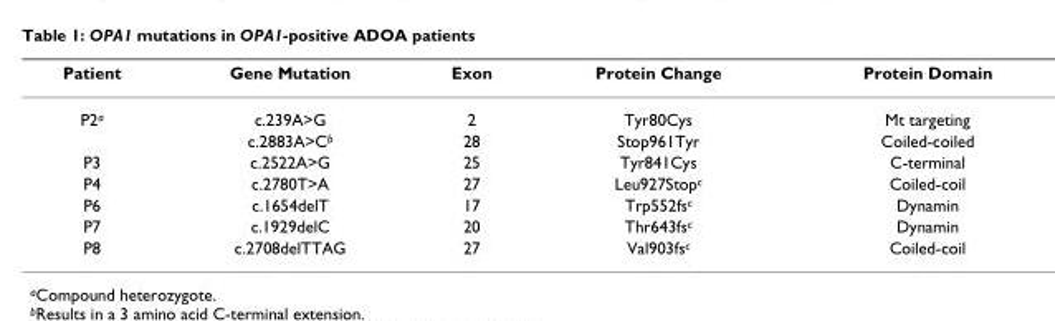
<table><thead><tr><td>Patient</td><td>Gene Mutation</td><td>Exon</td><td>Protein Change</td><td>Protein Domain</td></tr></thead><tbody><tr><td rowspan="2">P2<sup>a</sup></td><td>c.239A&gt;G</td><td>2</td><td>Tyr80Cys</td><td>Mt targeting</td></tr><tr><td>c.2883A&gt;C<sup>b</sup></td><td>28</td><td>Stop961Tyr</td><td>Coiled-coiled</td></tr><tr><td>P3</td><td>c.2522A&gt;G</td><td>25</td><td>Tyr841Cys</td><td>C-terminal</td></tr><tr><td>P4</td><td>c.2780T&gt;A</td><td>27</td><td>Leu927Stop<sup>c</sup></td><td>Coiled-coil</td></tr><tr><td>P6</td><td>c.1654delT</td><td>17</td><td>Trp552fs<sup>c</sup></td><td>Dynamin</td></tr><tr><td>P7</td><td>c.1929delC</td><td>20</td><td>Thr643fs<sup>c</sup></td><td>Dynamin</td></tr><tr><td>P8</td><td>c.2708delTTAG</td><td>27</td><td>Val903fs<sup>c</sup></td><td>Coiled-coil</td></tr></tbody></table>